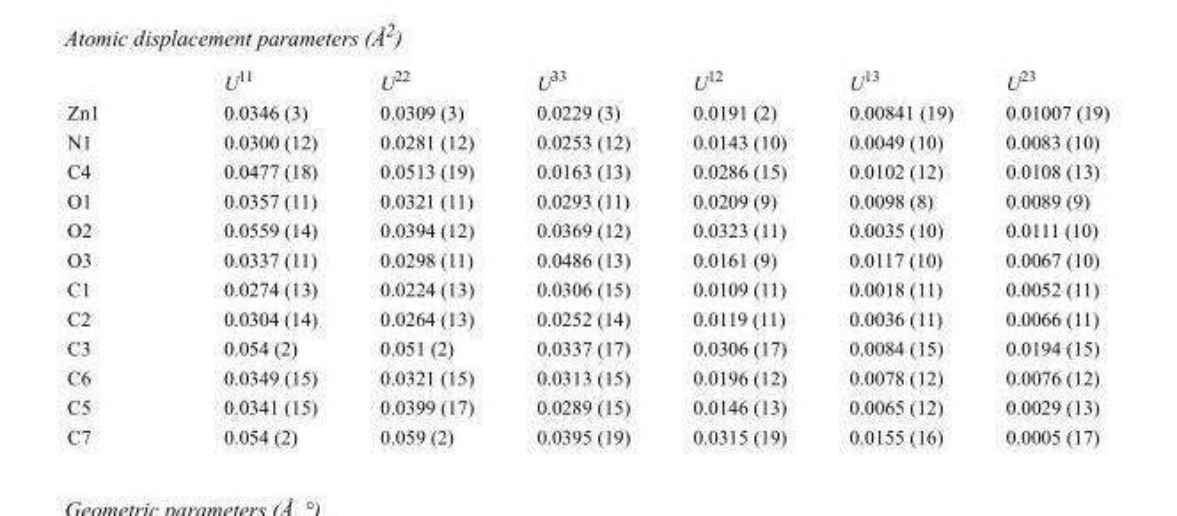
<table><thead><tr><td></td><td>U<sup>11</sup></td><td>U<sup>22</sup></td><td>U<sup>33</sup></td><td>U<sup>12</sup></td><td>U<sup>13</sup></td><td>U<sup>23</sup></td></tr></thead><tbody><tr><td>Zn1</td><td>0.0346 (3)</td><td>0.0309 (3)</td><td>0.0229 (3)</td><td>0.0191 (2)</td><td>0.00841 (19)</td><td>0.01007 (19)</td></tr><tr><td>N1</td><td>0.0300 (12)</td><td>0.0281 (12)</td><td>0.0253 (12)</td><td>0.0143 (10)</td><td>0.0049 (10)</td><td>0.0083 (10)</td></tr><tr><td>C4</td><td>0.0477 (18)</td><td>0.0513 (19)</td><td>0.0163 (13)</td><td>0.0286 (15)</td><td>0.0102 (12)</td><td>0.0108 (13)</td></tr><tr><td>O1</td><td>0.0357 (11)</td><td>0.0321 (11)</td><td>0.0293 (11)</td><td>0.0209 (9)</td><td>0.0098 (8)</td><td>0.0089 (9)</td></tr><tr><td>O2</td><td>0.0559 (14)</td><td>0.0394 (12)</td><td>0.0369 (12)</td><td>0.0323 (11)</td><td>0.0035 (10)</td><td>0.0111 (10)</td></tr><tr><td>O3</td><td>0.0337 (11)</td><td>0.0298 (11)</td><td>0.0486 (13)</td><td>0.0161 (9)</td><td>0.0117 (10)</td><td>0.0067 (10)</td></tr><tr><td>C1</td><td>0.0274 (13)</td><td>0.0224 (13)</td><td>0.0306 (15)</td><td>0.0109 (11)</td><td>0.0018 (11)</td><td>0.0052 (11)</td></tr><tr><td>C2</td><td>0.0304 (14)</td><td>0.0264 (13)</td><td>0.0252 (14)</td><td>0.0119 (11)</td><td>0.0036 (11)</td><td>0.0066 (11)</td></tr><tr><td>C3</td><td>0.054 (2)</td><td>0.051 (2)</td><td>0.0337 (17)</td><td>0.0306 (17)</td><td>0.0084 (15)</td><td>0.0194 (15)</td></tr><tr><td>C6</td><td>0.0349 (15)</td><td>0.0321 (15)</td><td>0.0313 (15)</td><td>0.0196 (12)</td><td>0.0078 (12)</td><td>0.0076 (12)</td></tr><tr><td>C5</td><td>0.0341 (15)</td><td>0.0399 (17)</td><td>0.0289 (15)</td><td>0.0146 (13)</td><td>0.0065 (12)</td><td>0.0029 (13)</td></tr><tr><td>C7</td><td>0.054 (2)</td><td>0.059 (2)</td><td>0.0395 (19)</td><td>0.0315 (19)</td><td>0.0155 (16)</td><td>0.0005 (17)</td></tr></tbody></table>